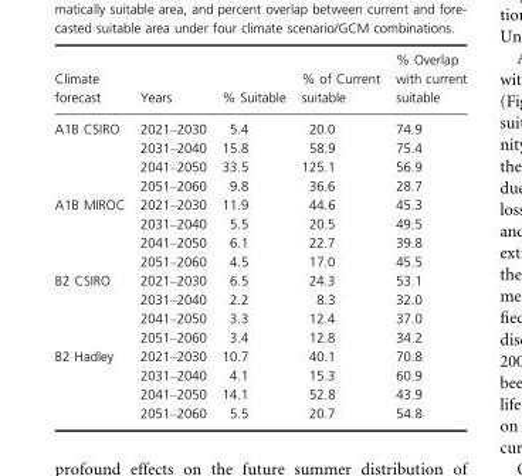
<table><thead><tr><td>Climate forecast</td><td>Years</td><td>% Suitable</td><td>% of Current suitable</td><td>% Overlap with current suitable</td></tr></thead><tbody><tr><td rowspan="4">A1B CSIRO</td><td>2021–2030</td><td>5.4</td><td>20.0</td><td>74.9</td></tr><tr><td>2031–2040</td><td>15.8</td><td>58.9</td><td>75.4</td></tr><tr><td>2041–2050</td><td>33.5</td><td>125.1</td><td>56.9</td></tr><tr><td>2051–2060</td><td>9.8</td><td>36.6</td><td>28.7</td></tr><tr><td rowspan="4">A1B MIROC</td><td>2021–2030</td><td>11.9</td><td>44.6</td><td>45.3</td></tr><tr><td>2031–2040</td><td>5.5</td><td>20.5</td><td>49.5</td></tr><tr><td>2041–2050</td><td>6.1</td><td>22.7</td><td>39.8</td></tr><tr><td>2051–2060</td><td>4.5</td><td>17.0</td><td>45.5</td></tr><tr><td rowspan="4">B2 CSIRO</td><td>2021–2030</td><td>6.5</td><td>24.3</td><td>53.1</td></tr><tr><td>2031–2040</td><td>2.2</td><td>8.3</td><td>32.0</td></tr><tr><td>2041–2050</td><td>3.3</td><td>12.4</td><td>37.0</td></tr><tr><td>2051–2060</td><td>3.4</td><td>12.8</td><td>34.2</td></tr><tr><td rowspan="4">B2 Hadley</td><td>2021–2030</td><td>10.7</td><td>40.1</td><td>70.8</td></tr><tr><td>2031–2040</td><td>4.1</td><td>15.3</td><td>60.9</td></tr><tr><td>2041–2050</td><td>14.1</td><td>52.8</td><td>43.9</td></tr><tr><td>2051–2060</td><td>5.5</td><td>20.7</td><td>54.8</td></tr></tbody></table>